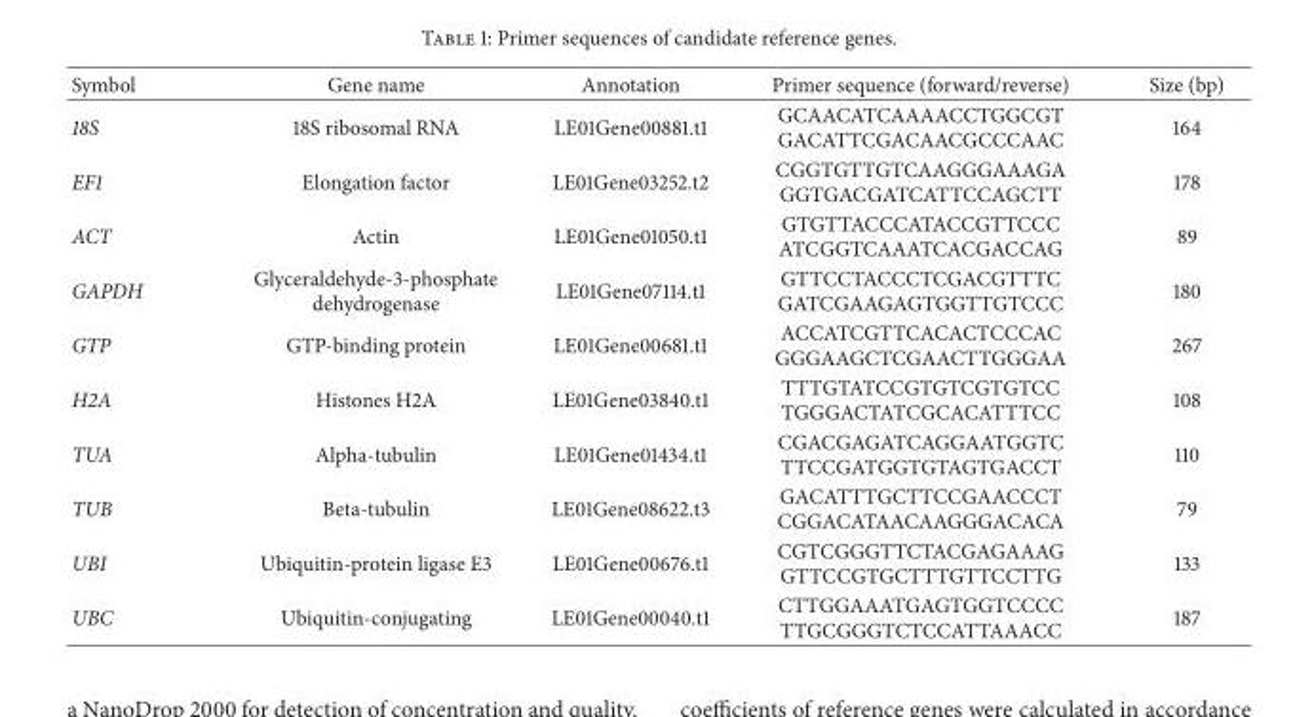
<table><thead><tr><td>Symbol</td><td>Gene name</td><td>Annotation</td><td>Primer sequence (forward/reverse)</td><td>Size (bp)</td></tr></thead><tbody><tr><td>18S</td><td>18S ribosomal RNA</td><td>LE01Gene00881.t1</td><td>GCAACATCAAAACCTGGCGT GACATTCGACAACGCCCAAC</td><td>164</td></tr><tr><td>EF1</td><td>Elongation factor</td><td>LE01Gene03252.t2</td><td>CGGTGTTGTCAAGGGAAAGA GGTGACGATCATTCCAGCTT</td><td>178</td></tr><tr><td>ACT</td><td>Actin</td><td>LE01Gene01050.t1</td><td>GTGTTACCCATACCGTTCCC ATCGGTCAAATCACGACCAG</td><td>89</td></tr><tr><td>GAPDH</td><td>Glyceraldehyde-3-phosphate dehydrogenase</td><td>LE01Gene07114.t1</td><td>GTTCCTACCCTCGACGTTTC GATCGAAGAGTGGTTGTCCC</td><td>180</td></tr><tr><td>GTP</td><td>GTP-binding protein</td><td>LE01Gene00681.t1</td><td>ACCATCGTTCACACTCCCAC GGGAAGCTCGAACTTGGGAA</td><td>267</td></tr><tr><td>H2A</td><td>Histones H2A</td><td>LE01Gene03840.t1</td><td>TTTGTATCCGTGTCGTGTCC TGGGACTATCGCACATTTCC</td><td>108</td></tr><tr><td>TUA</td><td>Alpha-tubulin</td><td>LE01Gene01434.t1</td><td>CGACGAGATCAGGAATGGTC TTCCGATGGTGTAGTGACCT</td><td>110</td></tr><tr><td>TUB</td><td>Beta-tubulin</td><td>LE01Gene08622.t3</td><td>GACATTTGCTTCCGAACCCT CGGACATAACAAGGGACACA</td><td>79</td></tr><tr><td>UBI</td><td>Ubiquitin-protein ligase E3</td><td>LE01Gene00676.t1</td><td>CGTCGGGTTCTACGAGAAAG GTTCCGTGCTTTGTTCCTTG</td><td>133</td></tr><tr><td>UBC</td><td>Ubiquitin-conjugating</td><td>LE01Gene00040.t1</td><td>CTTGGAAATGAGTGGTCCCC TTGCGGGTCTCCATTAAACC</td><td>187</td></tr></tbody></table>